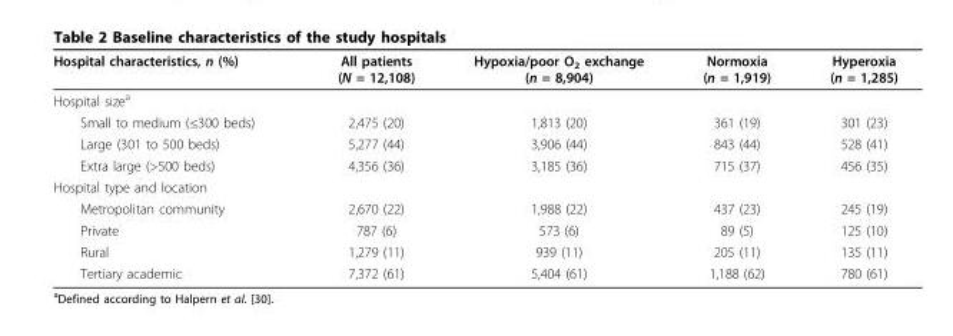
<table><thead><tr><td>Hospital characteristics, n (%)</td><td>All patients (N = 12,108)</td><td>Hypoxia/poor O<sub>2</sub> exchange (n = 8,904)</td><td>Normoxia (n = 1,919)</td><td>Hyperoxia (n = 1,285)</td></tr></thead><tbody><tr><td colspan="5">Hospital size<sup>a</sup></td></tr><tr><td>Small to medium (≤300 beds)</td><td>2,475 (20)</td><td>1,813 (20)</td><td>361 (19)</td><td>301 (23)</td></tr><tr><td>Large (301 to 500 beds)</td><td>5,277 (44)</td><td>3,906 (44)</td><td>843 (44)</td><td>528 (41)</td></tr><tr><td>Extra large (&gt;500 beds)</td><td>4,356 (36)</td><td>3,185 (36)</td><td>715 (37)</td><td>456 (35)</td></tr><tr><td colspan="5">Hospital type and location</td></tr><tr><td>Metropolitan community</td><td>2,670 (22)</td><td>1,988 (22)</td><td>437 (23)</td><td>245 (19)</td></tr><tr><td>Private</td><td>787 (6)</td><td>573 (6)</td><td>89 (5)</td><td>125 (10)</td></tr><tr><td>Rural</td><td>1,279 (11)</td><td>939 (11)</td><td>205 (11)</td><td>135 (11)</td></tr><tr><td>Tertiary academic</td><td>7,372 (61)</td><td>5,404 (61)</td><td>1,188 (62)</td><td>780 (61)</td></tr></tbody></table>